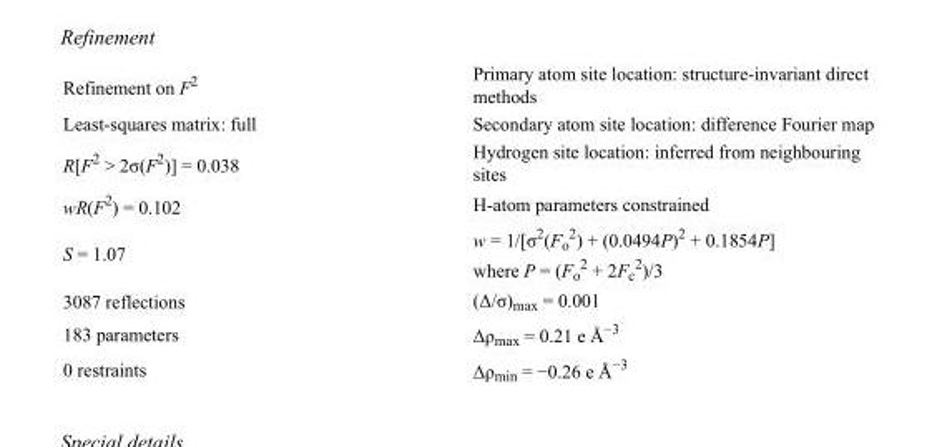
<table><tbody><tr><td>Refinement on F<sup>2</sup></td><td>Primary atom site location: structure-invariant direct methods</td></tr><tr><td>Least-squares matrix: full</td><td>Secondary atom site location: difference Fourier map</td></tr><tr><td>R[F<sup>2</sup> &gt; 2σ(F<sup>2</sup>)] = 0.038</td><td>Hydrogen site location: inferred from neighbouring sites</td></tr><tr><td>wR(F<sup>2</sup>) = 0.102</td><td>H-atom parameters constrained</td></tr><tr><td>S = 1.07</td><td>w = 1/[σ<sup>2</sup>(F<sub>o</sub> <sup>2</sup>) + (0.0494P)<sup>2</sup> + 0.1854P] where P = (F<sub>o</sub> <sup>2</sup> + 2F<sub>c</sub> <sup>2</sup>)/3</td></tr><tr><td>3087 reflections</td><td>(Δ/σ)<sub>max</sub> = 0.001</td></tr><tr><td>183 parameters</td><td>Δρ<sub>max</sub> = 0.21 e Å<sup>−3</sup></td></tr><tr><td>0 restraints</td><td>Δρ<sub>min</sub> = −0.26 e Å<sup>−3</sup></td></tr></tbody></table>